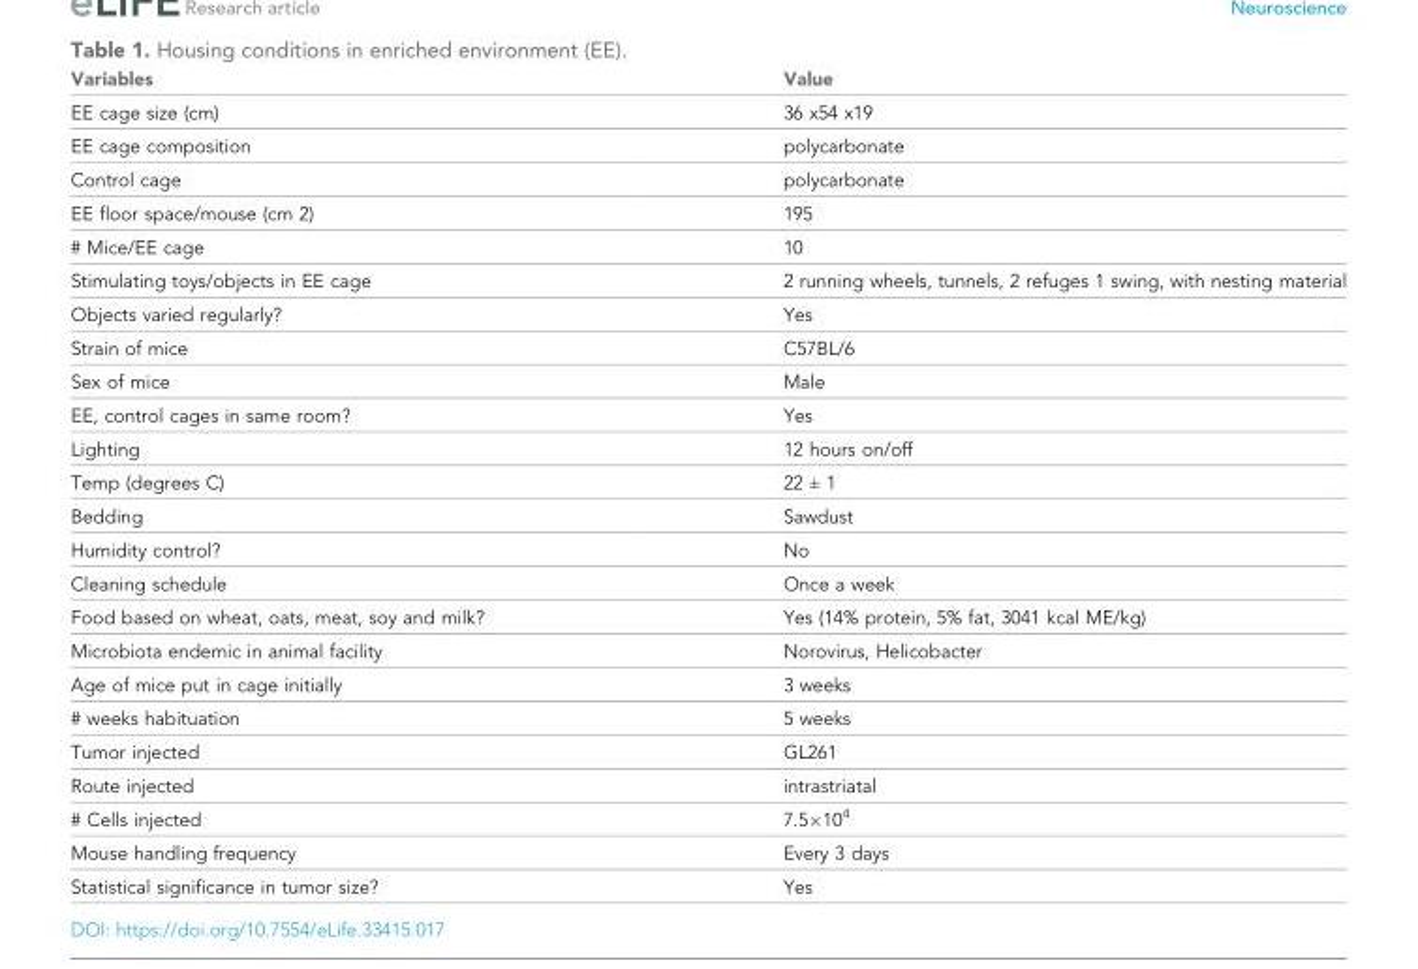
<table><thead><tr><td>Variables</td><td>Value</td></tr></thead><tbody><tr><td>EE cage size (cm)</td><td>36 x54 x19</td></tr><tr><td>EE cage composition</td><td>polycarbonate</td></tr><tr><td>Control cage</td><td>polycarbonate</td></tr><tr><td>EE floor space/mouse (cm 2)</td><td>195</td></tr><tr><td># Mice/EE cage</td><td>10</td></tr><tr><td>Stimulating toys/objects in EE cage</td><td>2 running wheels, tunnels, 2 refuges 1 swing, with nesting material</td></tr><tr><td>Objects varied regularly?</td><td>Yes</td></tr><tr><td>Strain of mice</td><td>C57BL/6</td></tr><tr><td>Sex of mice</td><td>Male</td></tr><tr><td>EE, control cages in same room?</td><td>Yes</td></tr><tr><td>Lighting</td><td>12 hours on/off</td></tr><tr><td>Temp (degrees C)</td><td>22 ± 1</td></tr><tr><td>Bedding</td><td>Sawdust</td></tr><tr><td>Humidity control?</td><td>No</td></tr><tr><td>Cleaning schedule</td><td>Once a week</td></tr><tr><td>Food based on wheat, oats, meat, soy and milk?</td><td>Yes (14% protein, 5% fat, 3041 kcal ME/kg)</td></tr><tr><td>Microbiota endemic in animal facility</td><td>Norovirus, Helicobacter</td></tr><tr><td>Age of mice put in cage initially</td><td>3 weeks</td></tr><tr><td># weeks habituation</td><td>5 weeks</td></tr><tr><td>Tumor injected</td><td>GL261</td></tr><tr><td>Route injected</td><td>intrastriatal</td></tr><tr><td># Cells injected</td><td>7.5×10<sup>4</sup></td></tr><tr><td>Mouse handling frequency</td><td>Every 3 days</td></tr><tr><td>Statistical significance in tumor size?</td><td>Yes</td></tr></tbody></table>